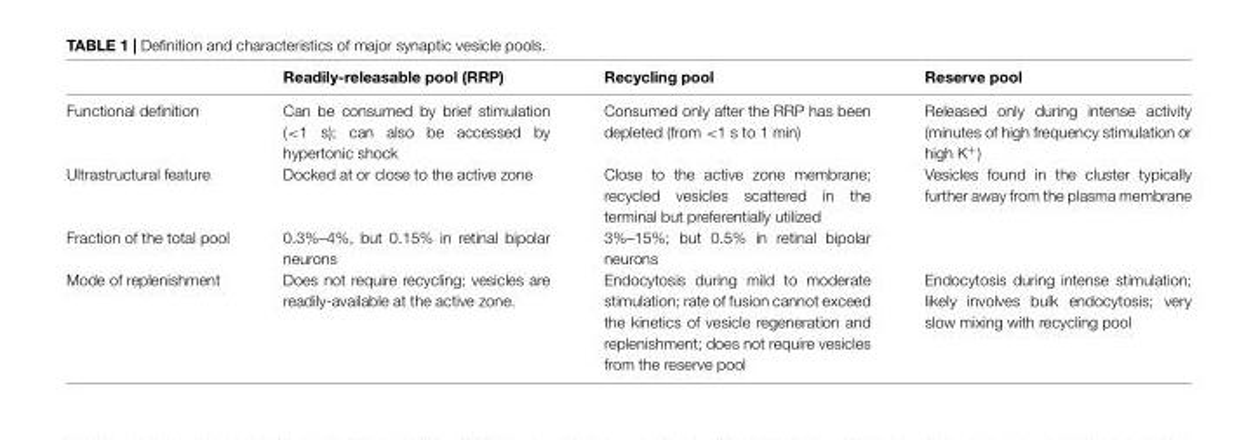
<table><thead><tr><td></td><td>Readily-releasable pool (RRP)</td><td>Recycling pool</td><td>Reserve pool</td></tr></thead><tbody><tr><td>Functional definition</td><td>Can be consumed by brief stimulation (&lt;1 s); can also be accessed by hypertonic shock</td><td>Consumed only after the RRP has been depleted (from &lt;1 s to 1 min)</td><td>Released only during intense activity (minutes of high frequency stimulation or high K<sup>+</sup>)</td></tr><tr><td>Ultrastructural feature</td><td>Docked at or close to the active zone</td><td>Close to the active zone membrane; recycled vesicles scattered in the terminal but preferentially utilized</td><td>Vesicles found in the cluster typically further away from the plasma membrane</td></tr><tr><td>Fraction of the total pool</td><td>0.3%–4%, but 0.15% in retinal bipolar neurons</td><td>3%–15%; but 0.5% in retinal bipolar neurons</td><td></td></tr><tr><td>Mode of replenishment</td><td>Does not require recycling; vesicles are readily-available at the active zone.</td><td>Endocytosis during mild to moderate stimulation; rate of fusion cannot exceed the kinetics of vesicle regeneration and replenishment; does not require vesicles from the reserve pool</td><td>Endocytosis during intense stimulation; likely involves bulk endocytosis; very slow mixing with recycling pool</td></tr></tbody></table>